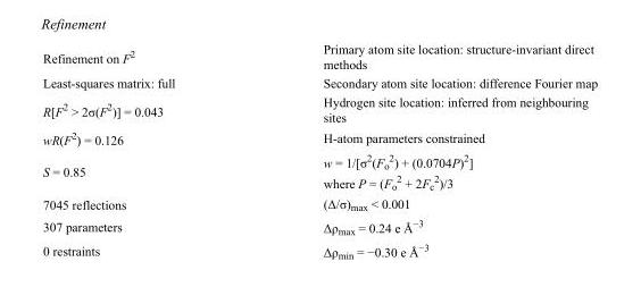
<table><tbody><tr><td>Refinement on F<sup>2</sup></td><td>Primary atom site location: structure-invariant direct methods</td></tr><tr><td>Least-squares matrix: full</td><td>Secondary atom site location: difference Fourier map</td></tr><tr><td>R[F<sup>2</sup> &gt; 2σ(F<sup>2</sup>)] = 0.043</td><td>Hydrogen site location: inferred from neighbouring sites</td></tr><tr><td>wR(F<sup>2</sup>) = 0.126</td><td>H-atom parameters constrained</td></tr><tr><td>S = 0.85</td><td>w = 1/[σ<sup>2</sup>(F<sub>o</sub> <sup>2</sup>) + (0.0704P)<sup>2</sup>] where P = (F<sub>o</sub> <sup>2</sup> + 2F<sub>c</sub> <sup>2</sup>)/3</td></tr><tr><td>7045 reflections</td><td>(Δ/σ)<sub>max</sub> &lt; 0.001</td></tr><tr><td>307 parameters</td><td>Δρ<sub>max</sub> = 0.24 e Å<sup>−3</sup></td></tr><tr><td>0 restraints</td><td>Δρ<sub>min</sub> = −0.30 e Å<sup>−3</sup></td></tr></tbody></table>